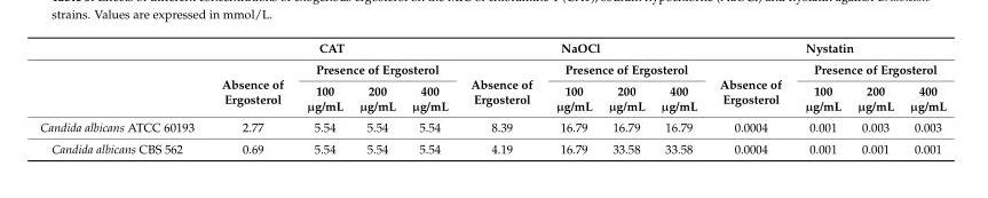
<table><thead><tr><td rowspan="3"></td><td colspan="4">CAT</td><td colspan="4">NaOCl</td><td colspan="4">Nystatin</td></tr><tr><td rowspan="2">Absence of Ergosterol</td><td colspan="3">Presence of Ergosterol</td><td rowspan="2">Absence of Ergosterol</td><td colspan="3">Presence of Ergosterol</td><td rowspan="2">Absence of Ergosterol</td><td colspan="3">Presence of Ergosterol</td></tr><tr><td>100 µg/mL</td><td>200 µg/mL</td><td>400 µg/mL</td><td>100 µg/mL</td><td>200 µg/mL</td><td>400 µg/mL</td><td>100 µg/mL</td><td>200 µg/mL</td><td>400 µg/mL</td></tr></thead><tbody><tr><td>Candida albicans ATCC 60193</td><td>2.77</td><td>5.54</td><td>5.54</td><td>5.54</td><td>8.39</td><td>16.79</td><td>16.79</td><td>16.79</td><td>0.0004</td><td>0.001</td><td>0.003</td><td>0.003</td></tr><tr><td>Candida albicans CBS 562</td><td>0.69</td><td>5.54</td><td>5.54</td><td>5.54</td><td>4.19</td><td>16.79</td><td>33.58</td><td>33.58</td><td>0.0004</td><td>0.001</td><td>0.001</td><td>0.001</td></tr></tbody></table>